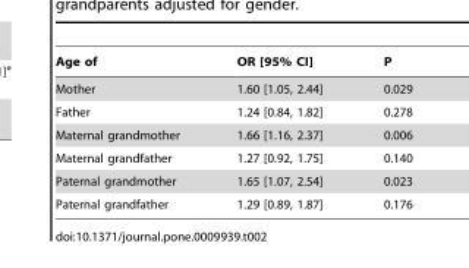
<table><thead><tr><td>Age of</td><td>OR [95% CI]</td><td>P</td></tr></thead><tbody><tr><td>Mother</td><td>1.60 [1.05, 2.44]</td><td>0.029</td></tr><tr><td>Father</td><td>1.24 [0.84, 1.82]</td><td>0.278</td></tr><tr><td>Maternal grandmother</td><td>1.66 [1.16, 2.37]</td><td>0.006</td></tr><tr><td>Maternal grandfather</td><td>1.27 [0.92, 1.75]</td><td>0.140</td></tr><tr><td>Paternal grandmother</td><td>1.65 [1.07, 2.54]</td><td>0.023</td></tr><tr><td>Paternal grandfather</td><td>1.29 [0.89, 1.87]</td><td>0.176</td></tr></tbody></table>